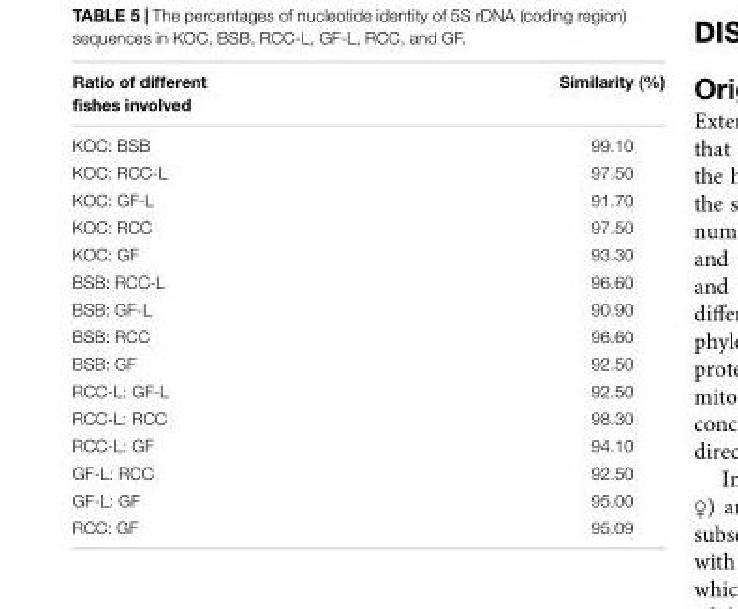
<table><thead><tr><td>Ratio of different fishes involved</td><td>Similarity (%)</td></tr></thead><tbody><tr><td>KOC: BSB</td><td>99.10</td></tr><tr><td>KOC: RCC-L</td><td>97.50</td></tr><tr><td>KOC: GF-L</td><td>91.70</td></tr><tr><td>KOC: RCC</td><td>97.50</td></tr><tr><td>KOC: GF</td><td>93.30</td></tr><tr><td>BSB: RCC-L</td><td>96.60</td></tr><tr><td>BSB: GF-L</td><td>90.90</td></tr><tr><td>BSB: RCC</td><td>96.60</td></tr><tr><td>BSB: GF</td><td>92.50</td></tr><tr><td>RCC-L: GF-L</td><td>92.50</td></tr><tr><td>RCC-L: RCC</td><td>98.30</td></tr><tr><td>RCC-L: GF</td><td>94.10</td></tr><tr><td>GF-L: RCC</td><td>92.50</td></tr><tr><td>GF-L: GF</td><td>95.00</td></tr><tr><td>RCC: GF</td><td>95.09</td></tr></tbody></table>